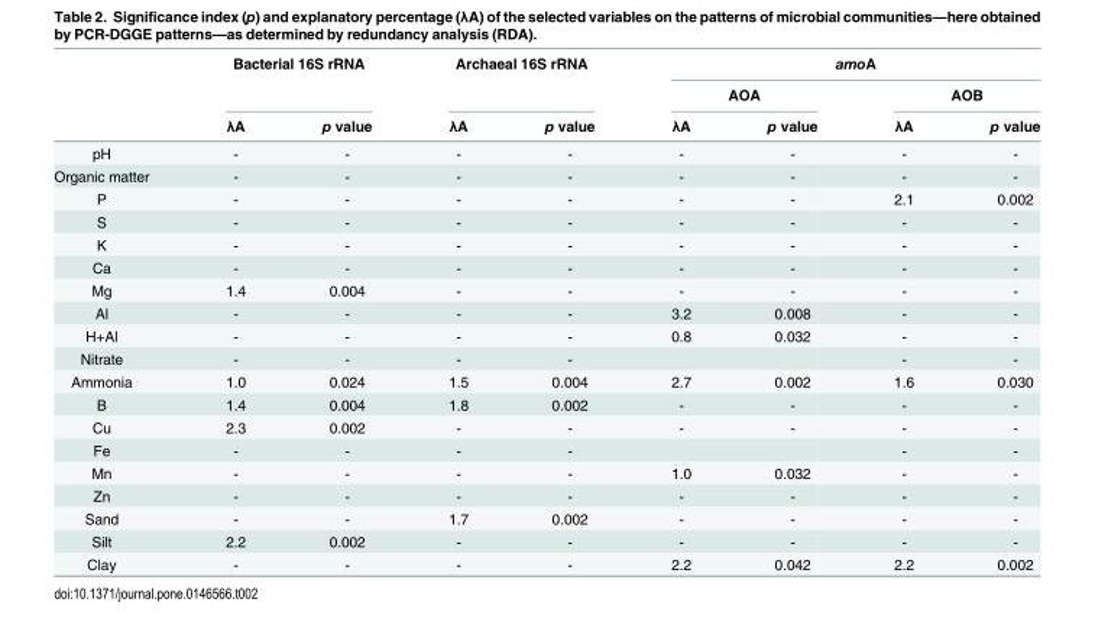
<table><thead><tr><td rowspan="3"></td><td rowspan="2" colspan="2">Bacterial 16S rRNA</td><td rowspan="2" colspan="2">Archaeal 16S rRNA</td><td colspan="4">amoA</td></tr><tr><td colspan="2">AOA</td><td colspan="2">AOB</td></tr><tr><td>λA</td><td>p value</td><td>λA</td><td>p value</td><td>λA</td><td>p value</td><td>λA</td><td>p value</td></tr></thead><tbody><tr><td>pH</td><td>-</td><td>-</td><td>-</td><td>-</td><td>-</td><td>-</td><td>-</td><td>-</td></tr><tr><td>Organic matter</td><td>-</td><td>-</td><td>-</td><td>-</td><td>-</td><td>-</td><td>-</td><td>-</td></tr><tr><td>P</td><td>-</td><td>-</td><td>-</td><td>-</td><td>-</td><td>-</td><td>2.1</td><td>0.002</td></tr><tr><td>S</td><td>-</td><td>-</td><td>-</td><td>-</td><td>-</td><td>-</td><td>-</td><td>-</td></tr><tr><td>K</td><td>-</td><td>-</td><td>-</td><td>-</td><td>-</td><td>-</td><td>-</td><td>-</td></tr><tr><td>Ca</td><td>-</td><td>-</td><td>-</td><td>-</td><td>-</td><td>-</td><td>-</td><td>-</td></tr><tr><td>Mg</td><td>1.4</td><td>0.004</td><td>-</td><td>-</td><td>-</td><td>-</td><td>-</td><td>-</td></tr><tr><td>Al</td><td>-</td><td>-</td><td>-</td><td>-</td><td>3.2</td><td>0.008</td><td>-</td><td>-</td></tr><tr><td>H+Al</td><td>-</td><td>-</td><td>-</td><td>-</td><td>0.8</td><td>0.032</td><td>-</td><td>-</td></tr><tr><td>Nitrate</td><td>-</td><td>-</td><td>-</td><td>-</td><td></td><td></td><td>-</td><td>-</td></tr><tr><td>Ammonia</td><td>1.0</td><td>0.024</td><td>1.5</td><td>0.004</td><td>2.7</td><td>0.002</td><td>1.6</td><td>0.030</td></tr><tr><td>B</td><td>1.4</td><td>0.004</td><td>1.8</td><td>0.002</td><td>-</td><td>-</td><td>-</td><td>-</td></tr><tr><td>Cu</td><td>2.3</td><td>0.002</td><td>-</td><td>-</td><td>-</td><td>-</td><td>-</td><td>-</td></tr><tr><td>Fe</td><td>-</td><td>-</td><td>-</td><td>-</td><td></td><td></td><td>-</td><td>-</td></tr><tr><td>Mn</td><td>-</td><td>-</td><td>-</td><td>-</td><td>1.0</td><td>0.032</td><td>-</td><td>-</td></tr><tr><td>Zn</td><td>-</td><td>-</td><td>-</td><td>-</td><td>-</td><td>-</td><td>-</td><td>-</td></tr><tr><td>Sand</td><td>-</td><td>-</td><td>1.7</td><td>0.002</td><td>-</td><td>-</td><td>-</td><td>-</td></tr><tr><td>Silt</td><td>2.2</td><td>0.002</td><td>-</td><td>-</td><td>-</td><td>-</td><td>-</td><td>-</td></tr><tr><td>Clay</td><td>-</td><td>-</td><td>-</td><td>-</td><td>2.2</td><td>0.042</td><td>2.2</td><td>0.002</td></tr></tbody></table>